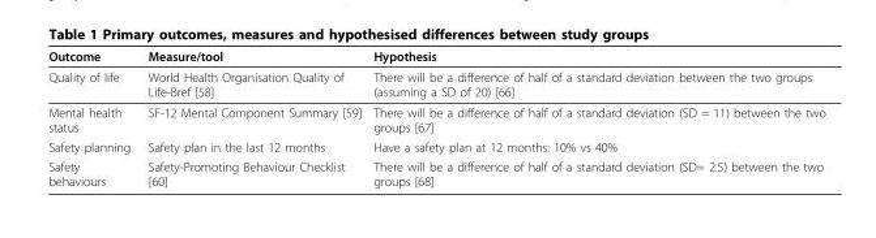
<table><thead><tr><td>Outcome</td><td>Measure/tool</td><td>Hypothesis</td></tr></thead><tbody><tr><td>Quality of life</td><td>World Health Organisation Quality of Life-Bref [58]</td><td>There will be a difference of half of a standard deviation between the two groups (assuming a SD of 20) [66]</td></tr><tr><td>Mental health status</td><td>SF-12 Mental Component Summary [59]</td><td>There will be a difference of half of a standard deviation (SD = 11) between the two groups [67]</td></tr><tr><td>Safety planning</td><td>Safety plan in the last 12 months</td><td>Have a safety plan at 12 months: 10% vs 40%</td></tr><tr><td>Safety behaviours</td><td>Safety-Promoting Behaviour Checklist [60]</td><td>There will be a difference of half of a standard deviation (SD= 2.5) between the two groups [68]</td></tr></tbody></table>